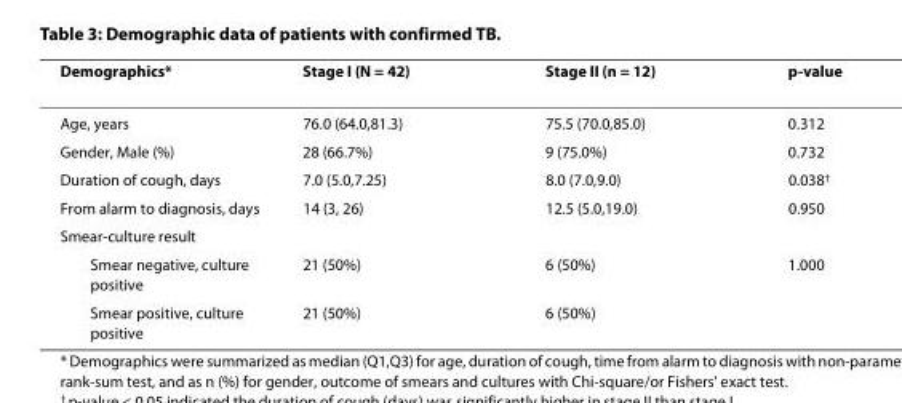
<table><thead><tr><td>Demographics*</td><td>Stage I (N = 42)</td><td>Stage II (n = 12)</td><td>p-value</td></tr></thead><tbody><tr><td>Age, years</td><td>76.0 (64.0,81.3)</td><td>75.5 (70.0,85.0)</td><td>0.312</td></tr><tr><td>Gender, Male (%)</td><td>28 (66.7%)</td><td>9 (75.0%)</td><td>0.732</td></tr><tr><td>Duration of cough, days</td><td>7.0 (5.0,7.25)</td><td>8.0 (7.0,9.0)</td><td>0.038<sup>†</sup></td></tr><tr><td>From alarm to diagnosis, days</td><td>14 (3, 26)</td><td>12.5 (5.0,19.0)</td><td>0.950</td></tr><tr><td colspan="4">Smear-culture result</td></tr><tr><td>Smear negative, culture positive</td><td>21 (50%)</td><td>6 (50%)</td><td>1.000</td></tr><tr><td>Smear positive, culture positive</td><td>21 (50%)</td><td>6 (50%)</td><td></td></tr></tbody></table>